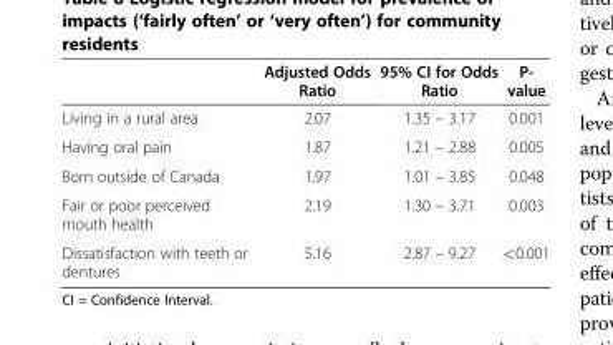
<table><thead><tr><td></td><td>Adjusted Odds Ratio</td><td>95% CI for Odds Ratio</td><td>P- value</td></tr></thead><tbody><tr><td>Living in a rural area</td><td>2.07</td><td>1.35 – 3.17</td><td>0.001</td></tr><tr><td>Having oral pain</td><td>1.87</td><td>1.21 – 2.88</td><td>0.005</td></tr><tr><td>Born outside of Canada</td><td>1.97</td><td>1.01 – 3.85</td><td>0.048</td></tr><tr><td>Fair or poor perceived mouth health</td><td>2.19</td><td>1.30 – 3.71</td><td>0.003</td></tr><tr><td>Dissatisfaction with teeth or dentures</td><td>5.16</td><td>2.87 – 9.27</td><td>&lt;0.001</td></tr></tbody></table>